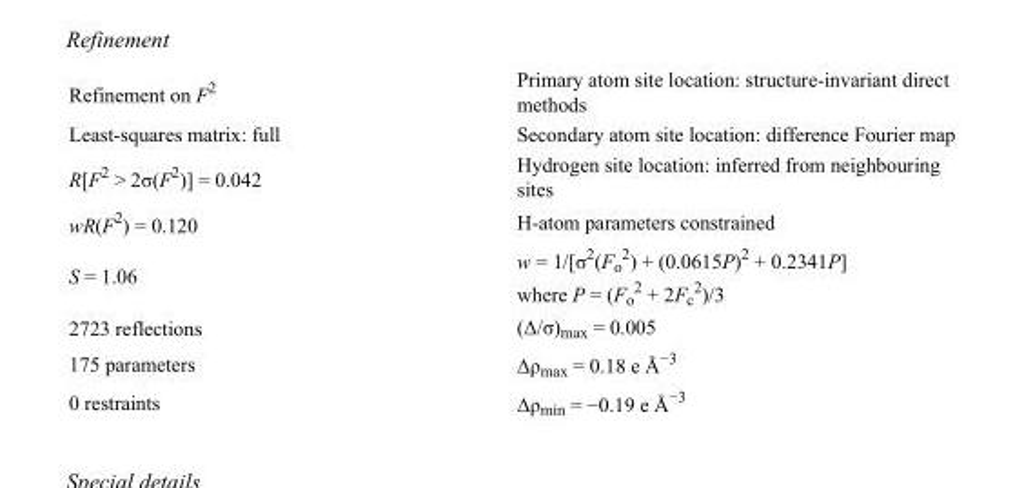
<table><tbody><tr><td>Refinement on F<sup>2</sup></td><td>Primary atom site location: structure-invariant direct methods</td></tr><tr><td>Least-squares matrix: full</td><td>Secondary atom site location: difference Fourier map</td></tr><tr><td>R[F<sup>2</sup> &gt; 2σ(F<sup>2</sup>)] = 0.042</td><td>Hydrogen site location: inferred from neighbouring sites</td></tr><tr><td>wR(F<sup>2</sup>) = 0.120</td><td>H-atom parameters constrained</td></tr><tr><td>S = 1.06</td><td>w = 1/[σ<sup>2</sup>(F<sub>o</sub> <sup>2</sup>) + (0.0615P)<sup>2</sup> + 0.2341P] where P = (F<sub>o</sub> <sup>2</sup> + 2F<sub>c</sub> <sup>2</sup>)/3</td></tr><tr><td>2723 reflections</td><td>(Δ/σ)<sub>max</sub> = 0.005</td></tr><tr><td>175 parameters</td><td>Δρ<sub>max</sub> = 0.18 e Å<sup>−3</sup></td></tr><tr><td>0 restraints</td><td>Δρ<sub>min</sub> = −0.19 e Å<sup>−3</sup></td></tr></tbody></table>